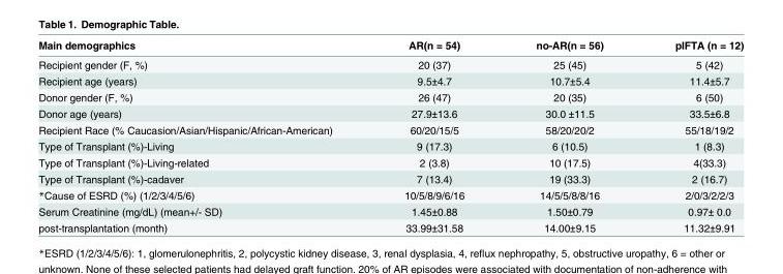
<table><thead><tr><td>Main demographics</td><td>AR(n = 54)</td><td>no-AR(n = 56)</td><td>pIFTA (n = 12)</td></tr></thead><tbody><tr><td>Recipient gender (F, %)</td><td>20 (37)</td><td>25 (45)</td><td>5 (42)</td></tr><tr><td>Recipient age (years)</td><td>9.5±4.7</td><td>10.7±5.4</td><td>11.4±5.7</td></tr><tr><td>Donor gender (F, %)</td><td>26 (47)</td><td>20 (35)</td><td>6 (50)</td></tr><tr><td>Donor age (years)</td><td>27.9±13.6</td><td>30.0 ±11.5</td><td>33.5±6.8</td></tr><tr><td>Recipient Race (% Caucasion/Asian/Hispanic/African-American)</td><td>60/20/15/5</td><td>58/20/20/2</td><td>55/18/19/2</td></tr><tr><td>Type of Transplant (%)-Living</td><td>9 (17.3)</td><td>6 (10.5)</td><td>1 (8.3)</td></tr><tr><td>Type of Transplant (%)-Living-related</td><td>2 (3.8)</td><td>10 (17.5)</td><td>4(33.3)</td></tr><tr><td>Type of Transplant (%)-cadaver</td><td>7 (13.4)</td><td>19 (33.3)</td><td>2 (16.7)</td></tr><tr><td>*Cause of ESRD (%) (1/2/3/4/5/6)</td><td>10/5/8/9/6/16</td><td>14/5/5/8/8/16</td><td>2/0/3/2/2/3</td></tr><tr><td>Serum Creatinine (mg/dL) (mean+/- SD)</td><td>1.45±0.88</td><td>1.50±0.79</td><td>0.97± 0.0</td></tr><tr><td>post-transplantation (month)</td><td>33.99±31.58</td><td>14.00±9.15</td><td>11.32±9.91</td></tr></tbody></table>